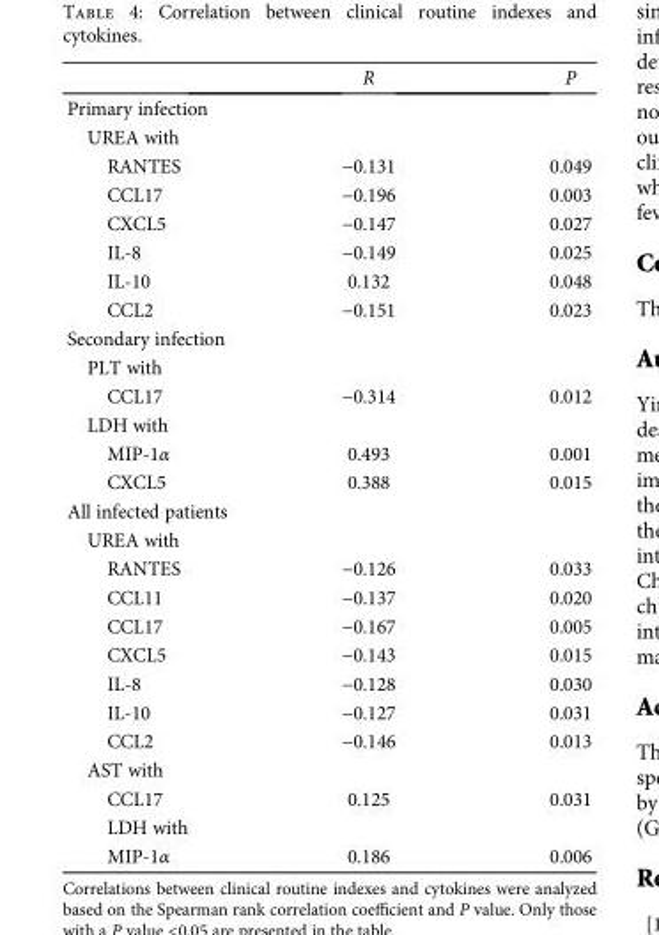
<table><thead><tr><td></td><td>R</td><td>P</td></tr></thead><tbody><tr><td colspan="3">Primary infection</td></tr><tr><td colspan="3">UREA with</td></tr><tr><td>RANTES</td><td>−0.131</td><td>0.049</td></tr><tr><td>CCL17</td><td>−0.196</td><td>0.003</td></tr><tr><td>CXCL5</td><td>−0.147</td><td>0.027</td></tr><tr><td>IL-8</td><td>−0.149</td><td>0.025</td></tr><tr><td>IL-10</td><td>0.132</td><td>0.048</td></tr><tr><td>CCL2</td><td>−0.151</td><td>0.023</td></tr><tr><td colspan="3">Secondary infection</td></tr><tr><td colspan="3">PLT with</td></tr><tr><td>CCL17</td><td>−0.314</td><td>0.012</td></tr><tr><td colspan="3">LDH with</td></tr><tr><td>MIP-1α</td><td>0.493</td><td>0.001</td></tr><tr><td>CXCL5</td><td>0.388</td><td>0.015</td></tr><tr><td colspan="3">All infected patients</td></tr><tr><td colspan="3">UREA with</td></tr><tr><td>RANTES</td><td>−0.126</td><td>0.033</td></tr><tr><td>CCL11</td><td>−0.137</td><td>0.020</td></tr><tr><td>CCL17</td><td>−0.167</td><td>0.005</td></tr><tr><td>CXCL5</td><td>−0.143</td><td>0.015</td></tr><tr><td>IL-8</td><td>−0.128</td><td>0.030</td></tr><tr><td>IL-10</td><td>−0.127</td><td>0.031</td></tr><tr><td>CCL2</td><td>−0.146</td><td>0.013</td></tr><tr><td colspan="3">AST with</td></tr><tr><td>CCL17</td><td>0.125</td><td>0.031</td></tr><tr><td colspan="3">LDH with</td></tr><tr><td>MIP-1α</td><td>0.186</td><td>0.006</td></tr></tbody></table>